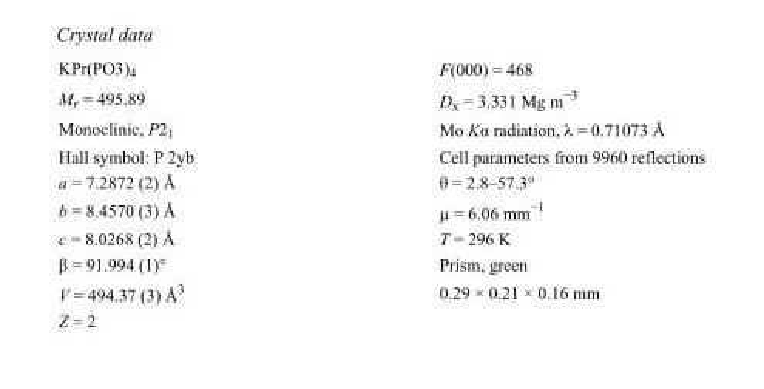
<table><tbody><tr><td>KPr(PO3)<sub>4</sub></td><td>F(000) = 468</td></tr><tr><td>M<sub>r</sub> = 495.89</td><td>D<sub>x</sub> = 3.331 Mg m<sup>−3</sup></td></tr><tr><td>Monoclinic, P2<sub>1</sub></td><td>Mo Kα radiation, λ = 0.71073 Å</td></tr><tr><td>Hall symbol: P 2yb</td><td>Cell parameters from 9960 reflections</td></tr><tr><td>a = 7.2872 (2) Å</td><td>θ = 2.8–57.3°</td></tr><tr><td>b = 8.4570 (3) Å</td><td>µ = 6.06 mm<sup>−1</sup></td></tr><tr><td>c = 8.0268 (2) Å</td><td>T = 296 K</td></tr><tr><td>β = 91.994 (1)°</td><td>Prism, green</td></tr><tr><td>V = 494.37 (3) Å<sup>3</sup></td><td>0.29 × 0.21 × 0.16 mm</td></tr><tr><td>Z = 2</td><td></td></tr></tbody></table>